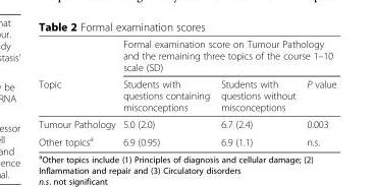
<table><thead><tr><td rowspan="2">Topic</td><td colspan="3">Formal examination score on Tumour Pathology and the remaining three topics of the course 1–10 scale (SD)</td></tr><tr><td>Students with questions containing misconceptions</td><td>Students with questions without misconceptions</td><td>P value</td></tr></thead><tbody><tr><td>Tumour Pathology</td><td>5.0 (2.0)</td><td>6.7 (2.4)</td><td>0.003</td></tr><tr><td>Other topics<sup>a</sup></td><td>6.9 (0.95)</td><td>6.9 (1.1)</td><td>n.s.</td></tr></tbody></table>